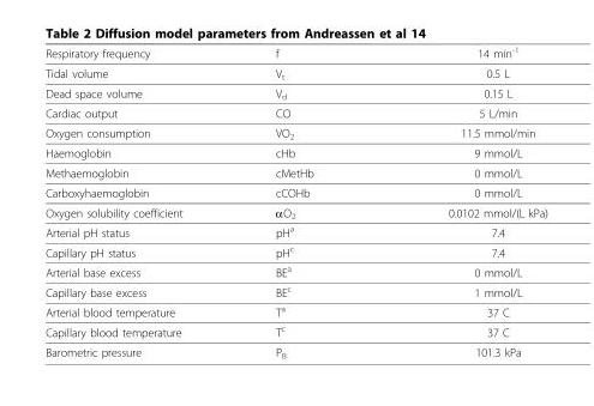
<table><thead><tr><td>Respiratory frequency</td><td>f</td><td>14 min<sup>-1</sup></td></tr></thead><tbody><tr><td>Tidal volume</td><td>V<sub>t</sub></td><td>0.5 L</td></tr><tr><td>Dead space volume</td><td>V<sub>d</sub></td><td>0.15 L</td></tr><tr><td>Cardiac output</td><td>CO</td><td>5 L/min</td></tr><tr><td>Oxygen consumption</td><td>VO<sub>2</sub></td><td>11.5 mmol/min</td></tr><tr><td>Haemoglobin</td><td>cHb</td><td>9 mmol/L</td></tr><tr><td>Methaemoglobin</td><td>cMetHb</td><td>0 mmol/L</td></tr><tr><td>Carboxyhaemoglobin</td><td>cCOHb</td><td>0 mmol/L</td></tr><tr><td>Oxygen solubility coefficient</td><td>αO<sub>2</sub></td><td>0.0102 mmol/(L kPa)</td></tr><tr><td>Arterial pH status</td><td>pH<sup>a</sup></td><td>7.4</td></tr><tr><td>Capillary pH status</td><td>pH<sup>c</sup></td><td>7.4</td></tr><tr><td>Arterial base excess</td><td>BE<sup>a</sup></td><td>0 mmol/L</td></tr><tr><td>Capillary base excess</td><td>BE<sup>c</sup></td><td>1 mmol/L</td></tr><tr><td>Arterial blood temperature</td><td>T<sup>a</sup></td><td>37 C</td></tr><tr><td>Capillary blood temperature</td><td>T<sup>c</sup></td><td>37 C</td></tr><tr><td>Barometric pressure</td><td>P<sub>B</sub></td><td>101.3 kPa</td></tr></tbody></table>